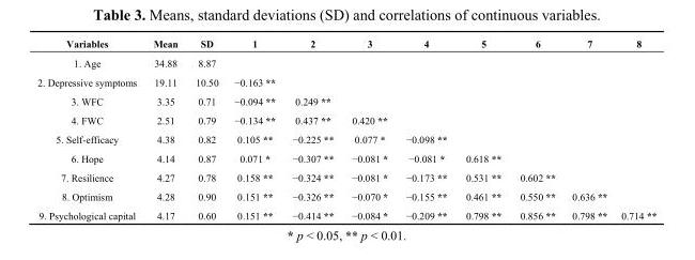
<table><thead><tr><td>Variables</td><td>Mean</td><td>SD</td><td>1</td><td>2</td><td>3</td><td>4</td><td>5</td><td>6</td><td>7</td><td>8</td></tr></thead><tbody><tr><td>1. Age</td><td>34.88</td><td>8.87</td><td></td><td></td><td></td><td></td><td></td><td></td><td></td><td></td></tr><tr><td>2. Depressive symptoms</td><td>19.11</td><td>10.50</td><td>−0.163 **</td><td></td><td></td><td></td><td></td><td></td><td></td><td></td></tr><tr><td>3. WFC</td><td>3.35</td><td>0.71</td><td>−0.094 **</td><td>0.249 **</td><td></td><td></td><td></td><td></td><td></td><td></td></tr><tr><td>4. FWC</td><td>2.51</td><td>0.79</td><td>−0.134 **</td><td>0.437 **</td><td>0.420 **</td><td></td><td></td><td></td><td></td><td></td></tr><tr><td>5. Self-efficacy</td><td>4.38</td><td>0.82</td><td>0.105 **</td><td>−0.225 **</td><td>0.077 *</td><td>−0.098 **</td><td></td><td></td><td></td><td></td></tr><tr><td>6. Hope</td><td>4.14</td><td>0.87</td><td>0.071 *</td><td>−0.307 **</td><td>−0.081 *</td><td>−0.081 *</td><td>0.618 **</td><td></td><td></td><td></td></tr><tr><td>7. Resilience</td><td>4.27</td><td>0.78</td><td>0.158 **</td><td>−0.324 **</td><td>−0.081 *</td><td>−0.173 **</td><td>0.531 **</td><td>0.602 **</td><td></td><td></td></tr><tr><td>8. Optimism</td><td>4.28</td><td>0.90</td><td>0.151 **</td><td>−0.326 **</td><td>−0.070 *</td><td>−0.155 **</td><td>0.461 **</td><td>0.550 **</td><td>0.636 **</td><td></td></tr><tr><td>9. Psychological capital</td><td>4.17</td><td>0.60</td><td>0.151 **</td><td>−0.414 **</td><td>−0.084 *</td><td>−0.209 **</td><td>0.798 **</td><td>0.856 **</td><td>0.798 **</td><td>0.714 **</td></tr></tbody></table>